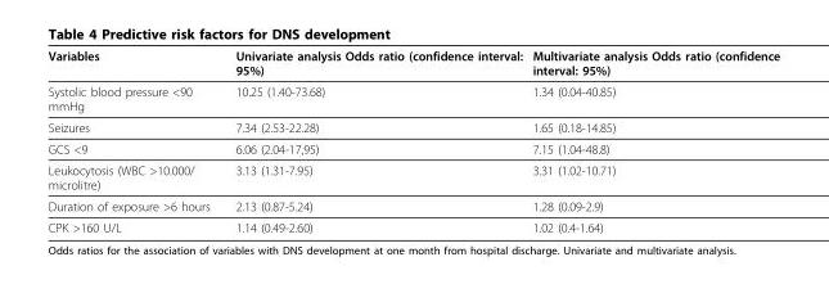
<table><thead><tr><td>Variables</td><td>Univariate analysis Odds ratio (confidence interval: 95%)</td><td>Multivariate analysis Odds ratio (confidence interval: 95%)</td></tr></thead><tbody><tr><td>Systolic blood pressure &lt;90 mmHg</td><td>10.25 (1.40-73.68)</td><td>1.34 (0.04-40.85)</td></tr><tr><td>Seizures</td><td>7.34 (2.53-22.28)</td><td>1.65 (0.18-14.85)</td></tr><tr><td>GCS &lt;9</td><td>6.06 (2.04-17,95)</td><td>7.15 (1.04-48.8)</td></tr><tr><td>Leukocytosis (WBC &gt;10.000/ microlitre)</td><td>3.13 (1.31-7.95)</td><td>3.31 (1.02-10.71)</td></tr><tr><td>Duration of exposure &gt;6 hours</td><td>2.13 (0.87-5.24)</td><td>1.28 (0.09-2.9)</td></tr><tr><td>CPK &gt;160 U/L</td><td>1.14 (0.49-2.60)</td><td>1.02 (0.4-1.64)</td></tr></tbody></table>